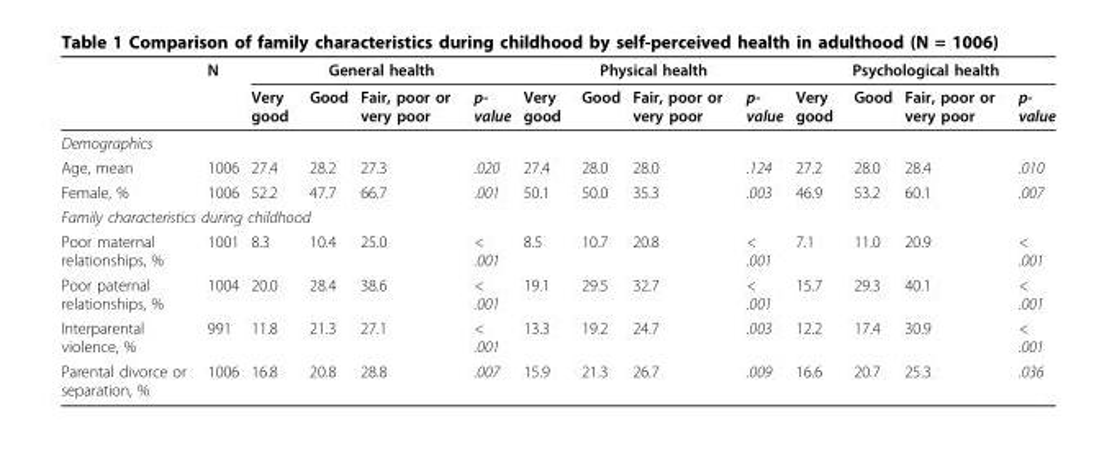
<table><thead><tr><td rowspan="2"></td><td rowspan="2">N</td><td colspan="4">General health</td><td colspan="4">Physical health</td><td colspan="4">Psychological health</td></tr><tr><td>Very good</td><td>Good</td><td>Fair, poor or very poor</td><td>p- value</td><td>Very good</td><td>Good</td><td>Fair, poor or very poor</td><td>p- value</td><td>Very good</td><td>Good</td><td>Fair, poor or very poor</td><td>p- value</td></tr></thead><tbody><tr><td colspan="14">Demographics</td></tr><tr><td>Age, mean</td><td>1006</td><td>27.4</td><td>28.2</td><td>27.3</td><td>.020</td><td>27.4</td><td>28.0</td><td>28.0</td><td>.124</td><td>27.2</td><td>28.0</td><td>28.4</td><td>.010</td></tr><tr><td>Female, %</td><td>1006</td><td>52.2</td><td>47.7</td><td>66.7</td><td>.001</td><td>50.1</td><td>50.0</td><td>35.3</td><td>.003</td><td>46.9</td><td>53.2</td><td>60.1</td><td>.007</td></tr><tr><td colspan="14">Family characteristics during childhood</td></tr><tr><td>Poor maternal relationships, %</td><td>1001</td><td>8.3</td><td>10.4</td><td>25.0</td><td>&lt; .001</td><td>8.5</td><td>10.7</td><td>20.8</td><td>&lt; .001</td><td>7.1</td><td>11.0</td><td>20.9</td><td>&lt; .001</td></tr><tr><td>Poor paternal relationships, %</td><td>1004</td><td>20.0</td><td>28.4</td><td>38.6</td><td>&lt; .001</td><td>19.1</td><td>29.5</td><td>32.7</td><td>&lt; .001</td><td>15.7</td><td>29.3</td><td>40.1</td><td>&lt; .001</td></tr><tr><td>Interparental violence, %</td><td>991</td><td>11.8</td><td>21.3</td><td>27.1</td><td>&lt; .001</td><td>13.3</td><td>19.2</td><td>24.7</td><td>.003</td><td>12.2</td><td>17.4</td><td>30.9</td><td>&lt; .001</td></tr><tr><td>Parental divorce or separation, %</td><td>1006</td><td>16.8</td><td>20.8</td><td>28.8</td><td>.007</td><td>15.9</td><td>21.3</td><td>26.7</td><td>.009</td><td>16.6</td><td>20.7</td><td>25.3</td><td>.036</td></tr></tbody></table>